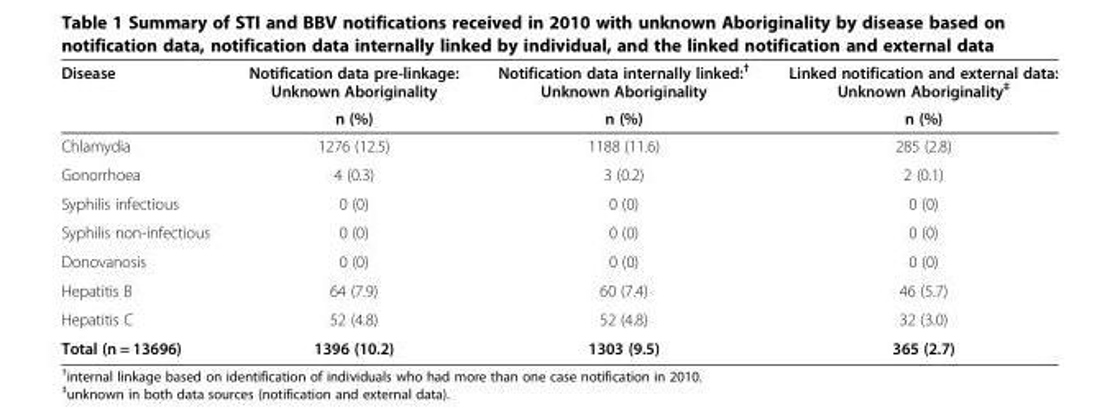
<table><thead><tr><td rowspan="2">Disease</td><td rowspan="2">Notification data pre-linkage: Unknown Aboriginality n (%)</td><td rowspan="2">Notification data internally linked:<sup>†</sup> Unknown Aboriginality n (%)</td><td rowspan="2">Linked notification and external data: Unknown Aboriginality<sup>‡</sup> n (%)</td></tr><tr></tr></thead><tbody><tr><td>Chlamydia</td><td>1276 (12.5)</td><td>1188 (11.6)</td><td>285 (2.8)</td></tr><tr><td>Gonorrhoea</td><td>4 (0.3)</td><td>3 (0.2)</td><td>2 (0.1)</td></tr><tr><td>Syphilis infectious</td><td>0 (0)</td><td>0 (0)</td><td>0 (0)</td></tr><tr><td>Syphilis non-infectious</td><td>0 (0)</td><td>0 (0)</td><td>0 (0)</td></tr><tr><td>Donovanosis</td><td>0 (0)</td><td>0 (0)</td><td>0 (0)</td></tr><tr><td>Hepatitis B</td><td>64 (7.9)</td><td>60 (7.4)</td><td>46 (5.7)</td></tr><tr><td>Hepatitis C</td><td>52 (4.8)</td><td>52 (4.8)</td><td>32 (3.0)</td></tr><tr><td>Total (n = 13696)</td><td>1396 (10.2)</td><td>1303 (9.5)</td><td>365 (2.7)</td></tr></tbody></table>